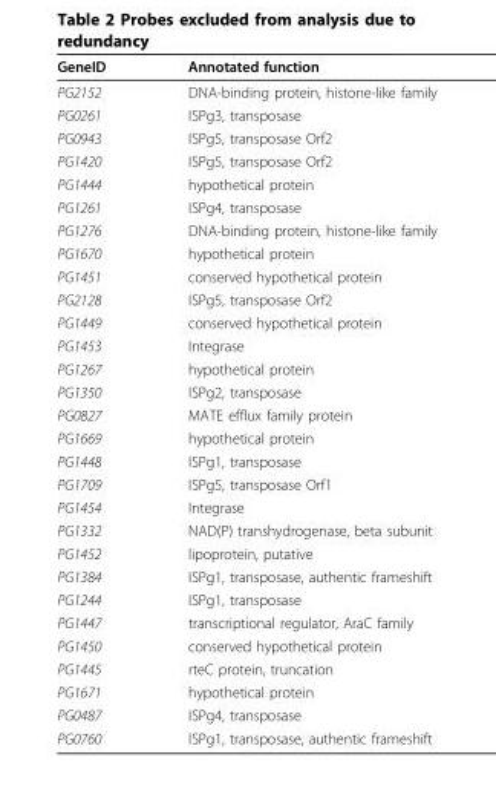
<table><thead><tr><td>GeneID</td><td>Annotated function</td></tr></thead><tbody><tr><td>PG2152</td><td>DNA-binding protein, histone-like family</td></tr><tr><td>PG0261</td><td>ISPg3, transposase</td></tr><tr><td>PG0943</td><td>ISPg5, transposase Orf2</td></tr><tr><td>PG1420</td><td>ISPg5, transposase Orf2</td></tr><tr><td>PG1444</td><td>hypothetical protein</td></tr><tr><td>PG1261</td><td>ISPg4, transposase</td></tr><tr><td>PG1276</td><td>DNA-binding protein, histone-like family</td></tr><tr><td>PG1670</td><td>hypothetical protein</td></tr><tr><td>PG1451</td><td>conserved hypothetical protein</td></tr><tr><td>PG2128</td><td>ISPg5, transposase Orf2</td></tr><tr><td>PG1449</td><td>conserved hypothetical protein</td></tr><tr><td>PG1453</td><td>Integrase</td></tr><tr><td>PG1267</td><td>hypothetical protein</td></tr><tr><td>PG1350</td><td>ISPg2, transposase</td></tr><tr><td>PG0827</td><td>MATE efflux family protein</td></tr><tr><td>PG1669</td><td>hypothetical protein</td></tr><tr><td>PG1448</td><td>ISPg1, transposase</td></tr><tr><td>PG1709</td><td>ISPg5, transposase Orf1</td></tr><tr><td>PG1454</td><td>Integrase</td></tr><tr><td>PG1332</td><td>NAD(P) transhydrogenase, beta subunit</td></tr><tr><td>PG1452</td><td>lipoprotein, putative</td></tr><tr><td>PG1384</td><td>ISPg1, transposase, authentic frameshift</td></tr><tr><td>PG1244</td><td>ISPg1, transposase</td></tr><tr><td>PG1447</td><td>transcriptional regulator, AraC family</td></tr><tr><td>PG1450</td><td>conserved hypothetical protein</td></tr><tr><td>PG1445</td><td>rteC protein, truncation</td></tr><tr><td>PG1671</td><td>hypothetical protein</td></tr><tr><td>PG0487</td><td>ISPg4, transposase</td></tr><tr><td>PG0760</td><td>ISPg1, transposase, authentic frameshift</td></tr></tbody></table>